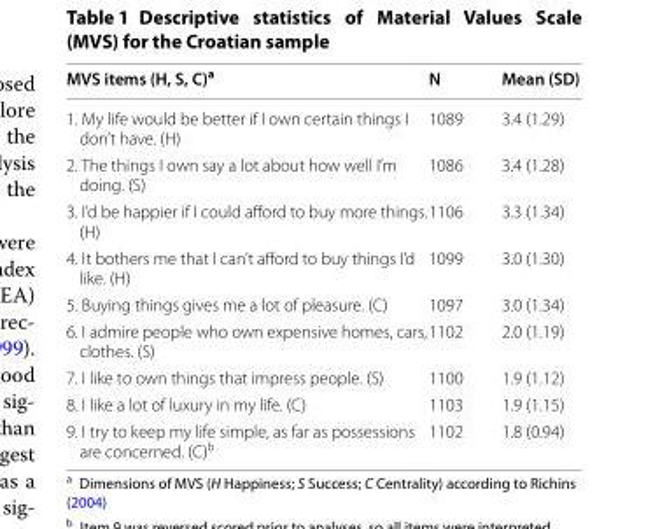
<table><thead><tr><td>MVS items (H, S, C)<sup>a</sup></td><td>N</td><td>Mean (SD)</td></tr></thead><tbody><tr><td>1. My life would be better if I own certain things I don’t have. (H)</td><td>1089</td><td>3.4 (1.29)</td></tr><tr><td>2. The things I own say a lot about how well I’m doing. (S)</td><td>1086</td><td>3.4 (1.28)</td></tr><tr><td>3. I’d be happier if I could afford to buy more things. (H)</td><td>1106</td><td>3.3 (1.34)</td></tr><tr><td>4. It bothers me that I can’t afford to buy things I’d like. (H)</td><td>1099</td><td>3.0 (1.30)</td></tr><tr><td>5. Buying things gives me a lot of pleasure. (C)</td><td>1097</td><td>3.0 (1.34)</td></tr><tr><td>6. I admire people who own expensive homes, cars, clothes. (S)</td><td>1102</td><td>2.0 (1.19)</td></tr><tr><td>7. I like to own things that impress people. (S)</td><td>1100</td><td>1.9 (1.12)</td></tr><tr><td>8. I like a lot of luxury in my life. (C)</td><td>1103</td><td>1.9 (1.15)</td></tr><tr><td>9. I try to keep my life simple, as far as possessions are concerned. (C)<sup>b</sup></td><td>1102</td><td>1.8 (0.94)</td></tr></tbody></table>